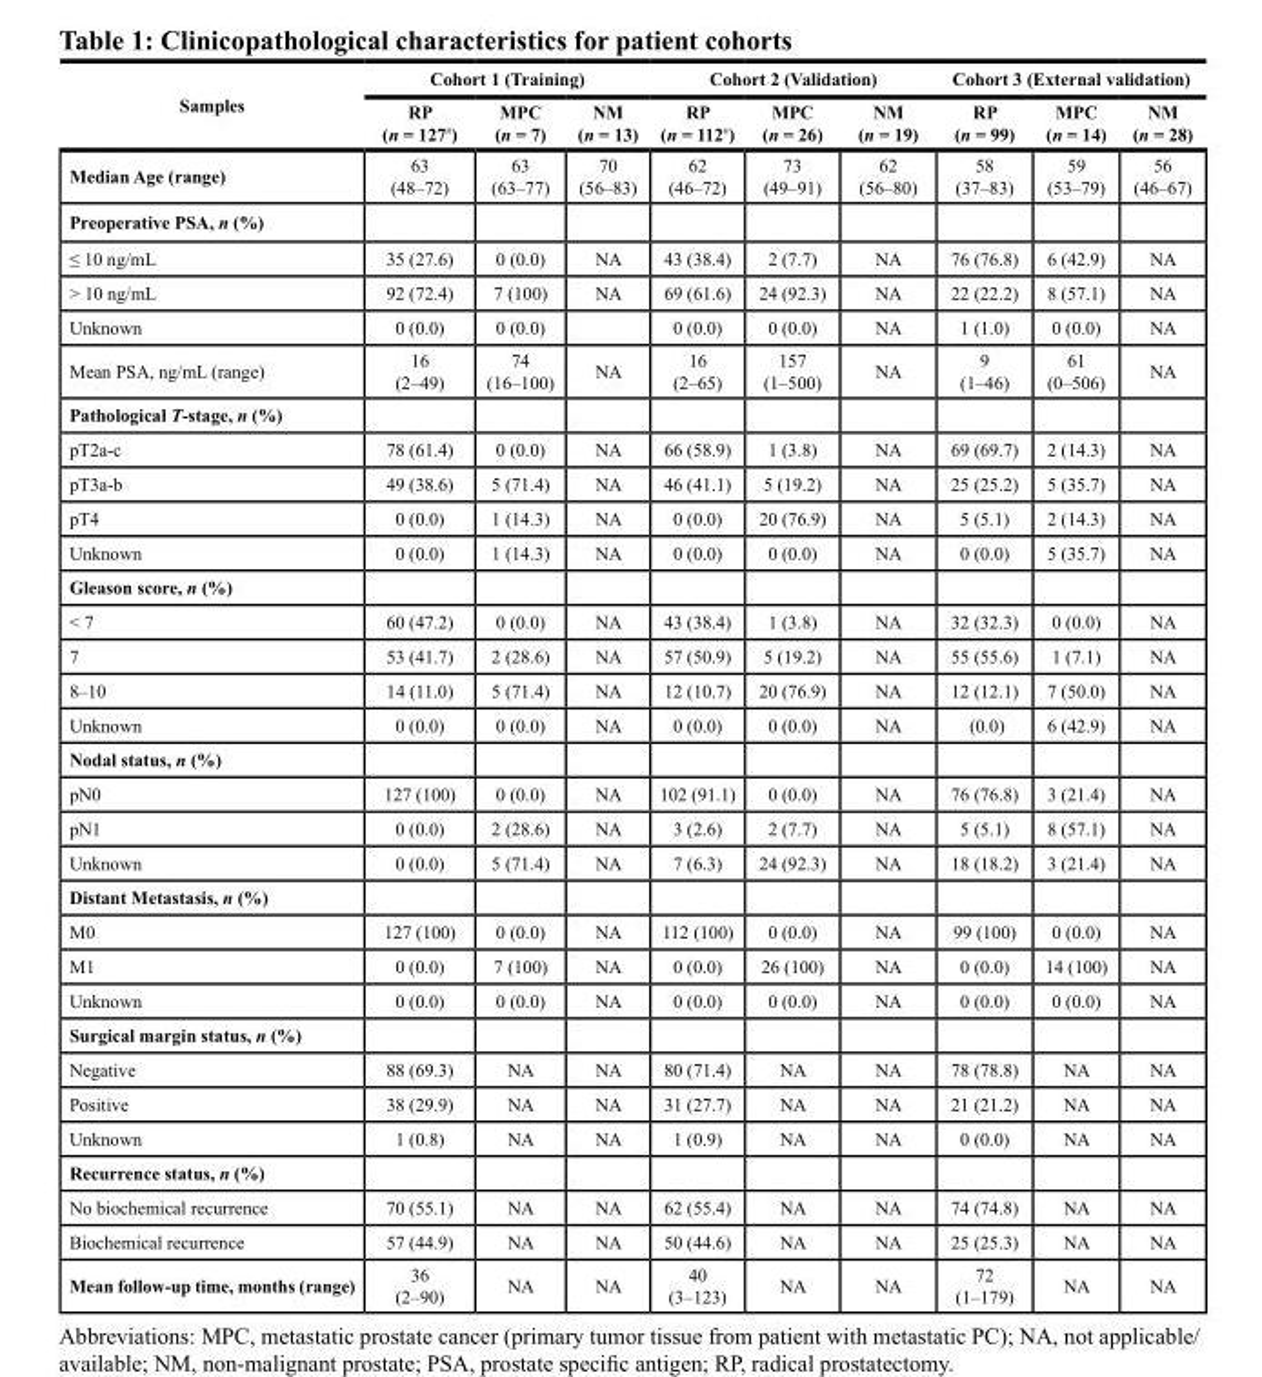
<table><thead><tr><td rowspan="2">Samples</td><td colspan="3">Cohort 1 (Training)</td><td colspan="3">Cohort 2 (Validation)</td><td colspan="3">Cohort 3 (External validation)</td></tr><tr><td>RP (n = 127<sup>#</sup>)</td><td>MPC (n = 7)</td><td>NM (n = 13)</td><td>RP (n = 112<sup>#</sup>)</td><td>MPC (n = 26)</td><td>NM (n = 19)</td><td>RP (n = 99)</td><td>MPC (n = 14)</td><td>NM (n = 28)</td></tr></thead><tbody><tr><td>Median Age (range)</td><td>63 (48–72)</td><td>63 (63–77)</td><td>70 (56–83)</td><td>62 (46–72)</td><td>73 (49–91)</td><td>62 (56–80)</td><td>58 (37–83)</td><td>59 (53–79)</td><td>56 (46–67)</td></tr><tr><td colspan="10">Preoperative PSA, n (%)</td></tr><tr><td>≤ 10 ng/mL</td><td>35 (27.6)</td><td>0 (0.0)</td><td>NA</td><td>43 (38.4)</td><td>2 (7.7)</td><td>NA</td><td>76 (76.8)</td><td>6 (42.9)</td><td>NA</td></tr><tr><td>&gt; 10 ng/mL</td><td>92 (72.4)</td><td>7 (100)</td><td>NA</td><td>69 (61.6)</td><td>24 (92.3)</td><td>NA</td><td>22 (22.2)</td><td>8 (57.1)</td><td>NA</td></tr><tr><td>Unknown</td><td>0 (0.0)</td><td>0 (0.0)</td><td></td><td>0 (0.0)</td><td>0 (0.0)</td><td>NA</td><td>1 (1.0)</td><td>0 (0.0)</td><td>NA</td></tr><tr><td>Mean PSA, ng/mL (range)</td><td>16 (2–49)</td><td>74 (16–100)</td><td>NA</td><td>16 (2–65)</td><td>157 (1–500)</td><td>NA</td><td>9 (1–46)</td><td>61 (0–506)</td><td>NA</td></tr><tr><td colspan="10">Pathological T-stage, n (%)</td></tr><tr><td>pT2a-c</td><td>78 (61.4)</td><td>0 (0.0)</td><td>NA</td><td>66 (58.9)</td><td>1 (3.8)</td><td>NA</td><td>69 (69.7)</td><td>2 (14.3)</td><td>NA</td></tr><tr><td>pT3a-b</td><td>49 (38.6)</td><td>5 (71.4)</td><td>NA</td><td>46 (41.1)</td><td>5 (19.2)</td><td>NA</td><td>25 (25.2)</td><td>5 (35.7)</td><td>NA</td></tr><tr><td>pT4</td><td>0 (0.0)</td><td>1 (14.3)</td><td>NA</td><td>0 (0.0)</td><td>20 (76.9)</td><td>NA</td><td>5 (5.1)</td><td>2 (14.3)</td><td>NA</td></tr><tr><td>Unknown</td><td>0 (0.0)</td><td>1 (14.3)</td><td>NA</td><td>0 (0.0)</td><td>0 (0.0)</td><td>NA</td><td>0 (0.0)</td><td>5 (35.7)</td><td>NA</td></tr><tr><td colspan="10">Gleason score, n (%)</td></tr><tr><td>&lt; 7</td><td>60 (47.2)</td><td>0 (0.0)</td><td>NA</td><td>43 (38.4)</td><td>1 (3.8)</td><td>NA</td><td>32 (32.3)</td><td>0 (0.0)</td><td>NA</td></tr><tr><td>7</td><td>53 (41.7)</td><td>2 (28.6)</td><td>NA</td><td>57 (50.9)</td><td>5 (19.2)</td><td>NA</td><td>55 (55.6)</td><td>1 (7.1)</td><td>NA</td></tr><tr><td>8–10</td><td>14 (11.0)</td><td>5 (71.4)</td><td>NA</td><td>12 (10.7)</td><td>20 (76.9)</td><td>NA</td><td>12 (12.1)</td><td>7 (50.0)</td><td>NA</td></tr><tr><td>Unknown</td><td>0 (0.0)</td><td>0 (0.0)</td><td>NA</td><td>0 (0.0)</td><td>0 (0.0)</td><td>NA</td><td>(0.0)</td><td>6 (42.9)</td><td>NA</td></tr><tr><td colspan="10">Nodal status, n (%)</td></tr><tr><td>pN0</td><td>127 (100)</td><td>0 (0.0)</td><td>NA</td><td>102 (91.1)</td><td>0 (0.0)</td><td>NA</td><td>76 (76.8)</td><td>3 (21.4)</td><td>NA</td></tr><tr><td>pN1</td><td>0 (0.0)</td><td>2 (28.6)</td><td>NA</td><td>3 (2.6)</td><td>2 (7.7)</td><td>NA</td><td>5 (5.1)</td><td>8 (57.1)</td><td>NA</td></tr><tr><td>Unknown</td><td>0 (0.0)</td><td>5 (71.4)</td><td>NA</td><td>7 (6.3)</td><td>24 (92.3)</td><td>NA</td><td>18 (18.2)</td><td>3 (21.4)</td><td>NA</td></tr><tr><td colspan="10">Distant Metastasis, n (%)</td></tr><tr><td>M0</td><td>127 (100)</td><td>0 (0.0)</td><td>NA</td><td>112 (100)</td><td>0 (0.0)</td><td>NA</td><td>99 (100)</td><td>0 (0.0)</td><td>NA</td></tr><tr><td>M1</td><td>0 (0.0)</td><td>7 (100)</td><td>NA</td><td>0 (0.0)</td><td>26 (100)</td><td>NA</td><td>0 (0.0)</td><td>14 (100)</td><td>NA</td></tr><tr><td>Unknown</td><td>0 (0.0)</td><td>0 (0.0)</td><td>NA</td><td>0 (0.0)</td><td>0 (0.0)</td><td>NA</td><td>0 (0.0)</td><td>0 (0.0)</td><td>NA</td></tr><tr><td colspan="10">Surgical margin status, n (%)</td></tr><tr><td>Negative</td><td>88 (69.3)</td><td>NA</td><td>NA</td><td>80 (71.4)</td><td>NA</td><td>NA</td><td>78 (78.8)</td><td>NA</td><td>NA</td></tr><tr><td>Positive</td><td>38 (29.9)</td><td>NA</td><td>NA</td><td>31 (27.7)</td><td>NA</td><td>NA</td><td>21 (21.2)</td><td>NA</td><td>NA</td></tr><tr><td>Unknown</td><td>1 (0.8)</td><td>NA</td><td>NA</td><td>1 (0.9)</td><td>NA</td><td>NA</td><td>0 (0.0)</td><td>NA</td><td>NA</td></tr><tr><td colspan="10">Recurrence status, n (%)</td></tr><tr><td>No biochemical recurrence</td><td>70 (55.1)</td><td>NA</td><td>NA</td><td>62 (55.4)</td><td>NA</td><td>NA</td><td>74 (74.8)</td><td>NA</td><td>NA</td></tr><tr><td>Biochemical recurrence</td><td>57 (44.9)</td><td>NA</td><td>NA</td><td>50 (44.6)</td><td>NA</td><td>NA</td><td>25 (25.3)</td><td>NA</td><td>NA</td></tr><tr><td>Mean follow-up time, months (range)</td><td>36 (2–90)</td><td>NA</td><td>NA</td><td>40 (3–123)</td><td>NA</td><td>NA</td><td>72 (1–179)</td><td>NA</td><td>NA</td></tr></tbody></table>